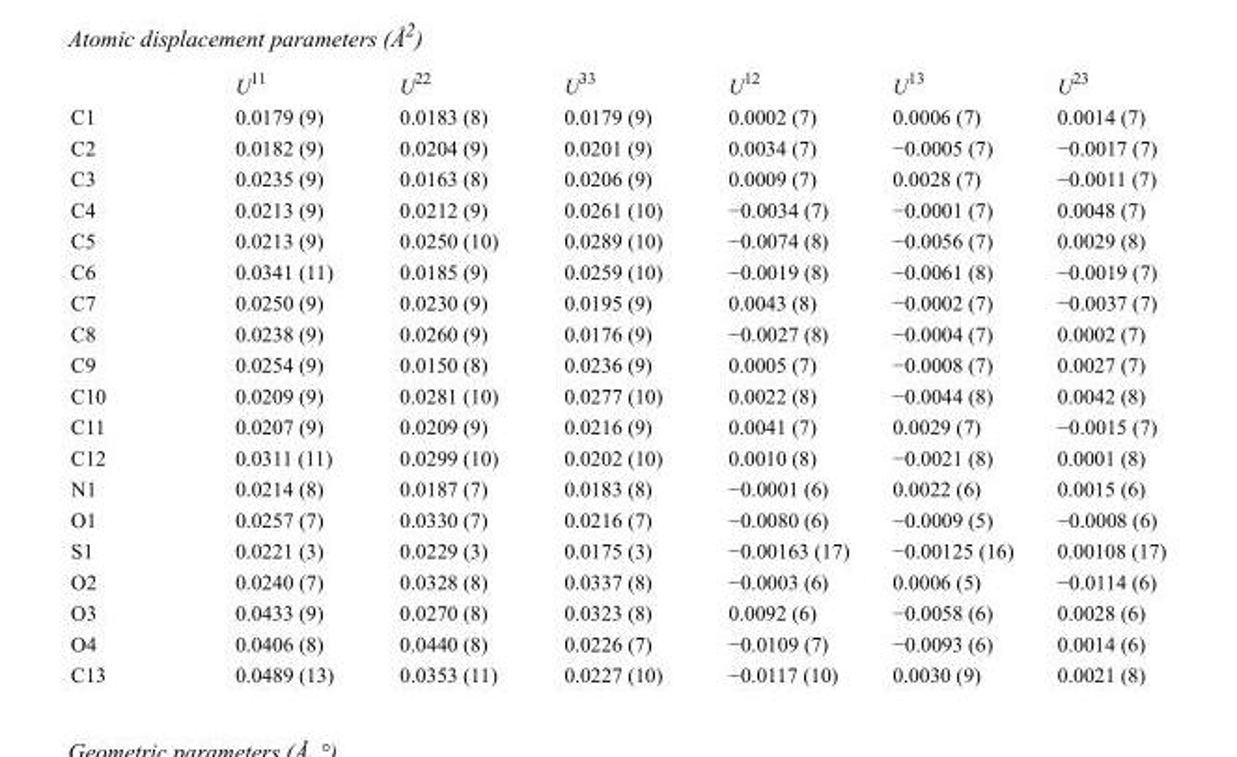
<table><thead><tr><td></td><td>U<sup>11</sup></td><td>U<sup>22</sup></td><td>U<sup>33</sup></td><td>U<sup>12</sup></td><td>U<sup>13</sup></td><td>U<sup>23</sup></td></tr></thead><tbody><tr><td>C1</td><td>0.0179 (9)</td><td>0.0183 (8)</td><td>0.0179 (9)</td><td>0.0002 (7)</td><td>0.0006 (7)</td><td>0.0014 (7)</td></tr><tr><td>C2</td><td>0.0182 (9)</td><td>0.0204 (9)</td><td>0.0201 (9)</td><td>0.0034 (7)</td><td>−0.0005 (7)</td><td>−0.0017 (7)</td></tr><tr><td>C3</td><td>0.0235 (9)</td><td>0.0163 (8)</td><td>0.0206 (9)</td><td>0.0009 (7)</td><td>0.0028 (7)</td><td>−0.0011 (7)</td></tr><tr><td>C4</td><td>0.0213 (9)</td><td>0.0212 (9)</td><td>0.0261 (10)</td><td>−0.0034 (7)</td><td>−0.0001 (7)</td><td>0.0048 (7)</td></tr><tr><td>C5</td><td>0.0213 (9)</td><td>0.0250 (10)</td><td>0.0289 (10)</td><td>−0.0074 (8)</td><td>−0.0056 (7)</td><td>0.0029 (8)</td></tr><tr><td>C6</td><td>0.0341 (11)</td><td>0.0185 (9)</td><td>0.0259 (10)</td><td>−0.0019 (8)</td><td>−0.0061 (8)</td><td>−0.0019 (7)</td></tr><tr><td>C7</td><td>0.0250 (9)</td><td>0.0230 (9)</td><td>0.0195 (9)</td><td>0.0043 (8)</td><td>−0.0002 (7)</td><td>−0.0037 (7)</td></tr><tr><td>C8</td><td>0.0238 (9)</td><td>0.0260 (9)</td><td>0.0176 (9)</td><td>−0.0027 (8)</td><td>−0.0004 (7)</td><td>0.0002 (7)</td></tr><tr><td>C9</td><td>0.0254 (9)</td><td>0.0150 (8)</td><td>0.0236 (9)</td><td>0.0005 (7)</td><td>−0.0008 (7)</td><td>0.0027 (7)</td></tr><tr><td>C10</td><td>0.0209 (9)</td><td>0.0281 (10)</td><td>0.0277 (10)</td><td>0.0022 (8)</td><td>−0.0044 (8)</td><td>0.0042 (8)</td></tr><tr><td>C11</td><td>0.0207 (9)</td><td>0.0209 (9)</td><td>0.0216 (9)</td><td>0.0041 (7)</td><td>0.0029 (7)</td><td>−0.0015 (7)</td></tr><tr><td>C12</td><td>0.0311 (11)</td><td>0.0299 (10)</td><td>0.0202 (10)</td><td>0.0010 (8)</td><td>−0.0021 (8)</td><td>0.0001 (8)</td></tr><tr><td>N1</td><td>0.0214 (8)</td><td>0.0187 (7)</td><td>0.0183 (8)</td><td>−0.0001 (6)</td><td>0.0022 (6)</td><td>0.0015 (6)</td></tr><tr><td>O1</td><td>0.0257 (7)</td><td>0.0330 (7)</td><td>0.0216 (7)</td><td>−0.0080 (6)</td><td>−0.0009 (5)</td><td>−0.0008 (6)</td></tr><tr><td>S1</td><td>0.0221 (3)</td><td>0.0229 (3)</td><td>0.0175 (3)</td><td>−0.00163 (17)</td><td>−0.00125 (16)</td><td>0.00108 (17)</td></tr><tr><td>O2</td><td>0.0240 (7)</td><td>0.0328 (8)</td><td>0.0337 (8)</td><td>−0.0003 (6)</td><td>0.0006 (5)</td><td>−0.0114 (6)</td></tr><tr><td>O3</td><td>0.0433 (9)</td><td>0.0270 (8)</td><td>0.0323 (8)</td><td>0.0092 (6)</td><td>−0.0058 (6)</td><td>0.0028 (6)</td></tr><tr><td>O4</td><td>0.0406 (8)</td><td>0.0440 (8)</td><td>0.0226 (7)</td><td>−0.0109 (7)</td><td>−0.0093 (6)</td><td>0.0014 (6)</td></tr><tr><td>C13</td><td>0.0489 (13)</td><td>0.0353 (11)</td><td>0.0227 (10)</td><td>−0.0117 (10)</td><td>0.0030 (9)</td><td>0.0021 (8)</td></tr></tbody></table>